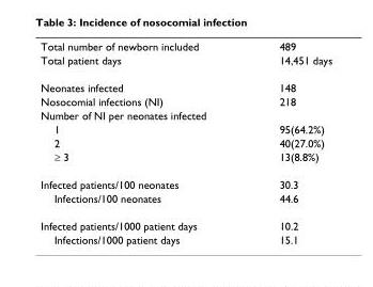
<table><tbody><tr><td>Total number of newborn included</td><td>489</td></tr><tr><td>Total patient days</td><td>14,451 days</td></tr><tr><td>Neonates infected</td><td>148</td></tr><tr><td>Nosocomial infections (NI)</td><td>218</td></tr><tr><td colspan="2">Number of NI per neonates infected</td></tr><tr><td>1</td><td>95(64.2%)</td></tr><tr><td>2</td><td>40(27.0%)</td></tr><tr><td>≥ 3</td><td>13(8.8%)</td></tr><tr><td>Infected patients/100 neonates</td><td>30.3</td></tr><tr><td>Infections/100 neonates</td><td>44.6</td></tr><tr><td>Infected patients/1000 patient days</td><td>10.2</td></tr><tr><td>Infections/1000 patient days</td><td>15.1</td></tr></tbody></table>